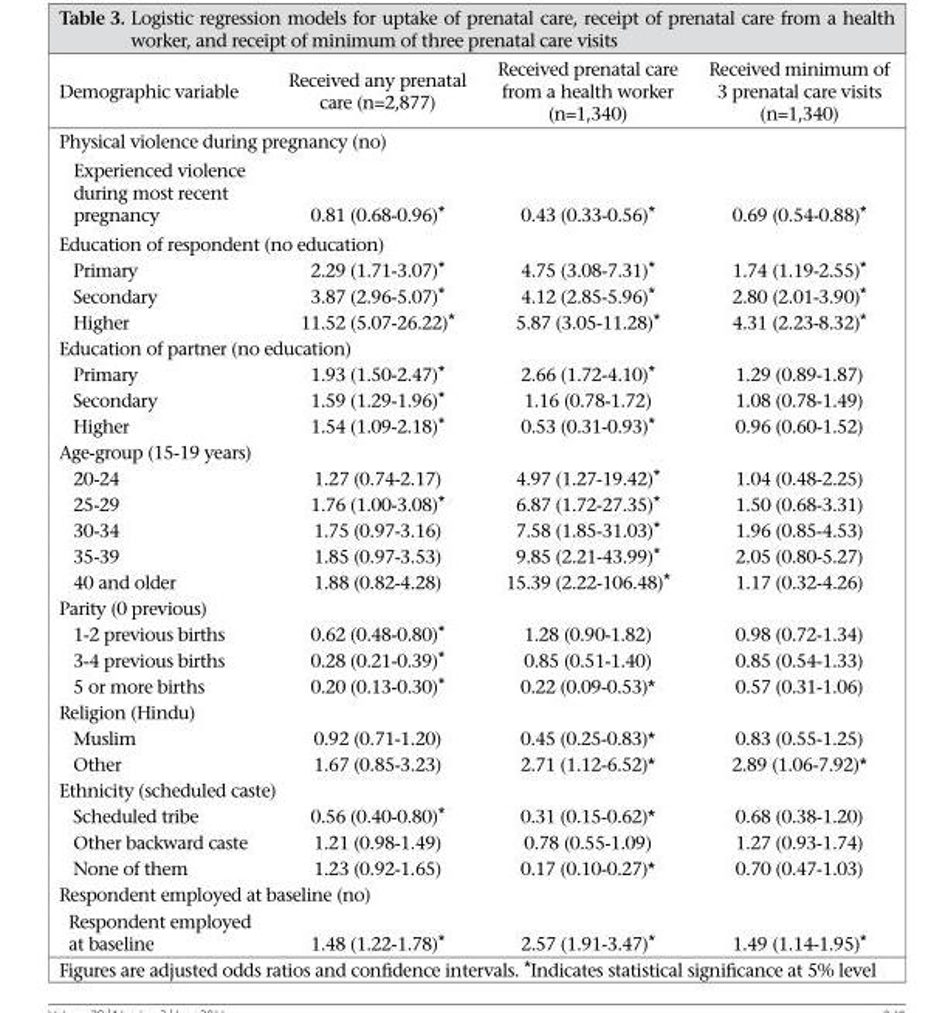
<table><thead><tr><td>Demographic variable</td><td>Received any prenatal care (n=2,877)</td><td>Received prenatal care from a health worker (n=1,340)</td><td>Received minimum of 3 prenatal care visits (n=1,340)</td></tr></thead><tbody><tr><td colspan="4">Physical violence during pregnancy (no)</td></tr><tr><td>Experienced violence during most recent pregnancy</td><td>0.81 (0.68-0.96)*</td><td>0.43 (0.33-0.56)*</td><td>0.69 (0.54-0.88)*</td></tr><tr><td colspan="4">Education of respondent (no education)</td></tr><tr><td>Primary</td><td>2.29 (1.71-3.07)*</td><td>4.75 (3.08-7.31)*</td><td>1.74 (1.19-2.55)*</td></tr><tr><td>Secondary</td><td>3.87 (2.96-5.07)*</td><td>4.12 (2.85-5.96)*</td><td>2.80 (2.01-3.90)*</td></tr><tr><td>Higher</td><td>11.52 (5.07-26.22)*</td><td>5.87 (3.05-11.28)*</td><td>4.31 (2.23-8.32)*</td></tr><tr><td colspan="4">Education of partner (no education)</td></tr><tr><td>Primary</td><td>1.93 (1.50-2.47)*</td><td>2.66 (1.72-4.10)*</td><td>1.29 (0.89-1.87)</td></tr><tr><td>Secondary</td><td>1.59 (1.29-1.96)*</td><td>1.16 (0.78-1.72)</td><td>1.08 (0.78-1.49)</td></tr><tr><td>Higher</td><td>1.54 (1.09-2.18)*</td><td>0.53 (0.31-0.93)*</td><td>0.96 (0.60-1.52)</td></tr><tr><td colspan="4">Age-group (15-19 years)</td></tr><tr><td>20-24</td><td>1.27 (0.74-2.17)</td><td>4.97 (1.27-19.42)*</td><td>1.04 (0.48-2.25)</td></tr><tr><td>25-29</td><td>1.76 (1.00-3.08)*</td><td>6.87 (1.72-27.35)*</td><td>1.50 (0.68-3.31)</td></tr><tr><td>30-34</td><td>1.75 (0.97-3.16)</td><td>7.58 (1.85-31.03)*</td><td>1.96 (0.85-4.53)</td></tr><tr><td>35-39</td><td>1.85 (0.97-3.53)</td><td>9.85 (2.21-43.99)*</td><td>2.05 (0.80-5.27)</td></tr><tr><td>40 and older</td><td>1.88 (0.82-4.28)</td><td>15.39 (2.22-106.48)*</td><td>1.17 (0.32-4.26)</td></tr><tr><td colspan="4">Parity (0 previous)</td></tr><tr><td>1-2 previous births</td><td>0.62 (0.48-0.80)*</td><td>1.28 (0.90-1.82)</td><td>0.98 (0.72-1.34)</td></tr><tr><td>3-4 previous births</td><td>0.28 (0.21-0.39)*</td><td>0.85 (0.51-1.40)</td><td>0.85 (0.54-1.33)</td></tr><tr><td>5 or more births</td><td>0.20 (0.13-0.30)*</td><td>0.22 (0.09-0.53)*</td><td>0.57 (0.31-1.06)</td></tr><tr><td colspan="4">Religion (Hindu)</td></tr><tr><td>Muslim</td><td>0.92 (0.71-1.20)</td><td>0.45 (0.25-0.83)*</td><td>0.83 (0.55-1.25)</td></tr><tr><td>Other</td><td>1.67 (0.85-3.23)</td><td>2.71 (1.12-6.52)*</td><td>2.89 (1.06-7.92)*</td></tr><tr><td colspan="4">Ethnicity (scheduled caste)</td></tr><tr><td>Scheduled tribe</td><td>0.56 (0.40-0.80)*</td><td>0.31 (0.15-0.62)*</td><td>0.68 (0.38-1.20)</td></tr><tr><td>Other backward caste</td><td>1.21 (0.98-1.49)</td><td>0.78 (0.55-1.09)</td><td>1.27 (0.93-1.74)</td></tr><tr><td>None of them</td><td>1.23 (0.92-1.65)</td><td>0.17 (0.10-0.27)*</td><td>0.70 (0.47-1.03)</td></tr><tr><td colspan="4">Respondent employed at baseline (no)</td></tr><tr><td>Respondent employed at baseline</td><td>1.48 (1.22-1.78)*</td><td>2.57 (1.91-3.47)*</td><td>1.49 (1.14-1.95)*</td></tr></tbody></table>